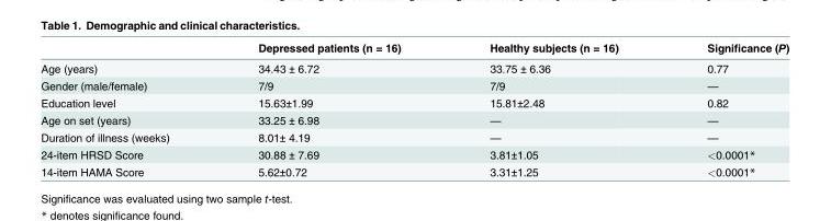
<table><thead><tr><td></td><td>Depressed patients (n = 16)</td><td>Healthy subjects (n = 16)</td><td>Significance (P)</td></tr></thead><tbody><tr><td>Age (years)</td><td>34.43 ± 6.72</td><td>33.75 ± 6.36</td><td>0.77</td></tr><tr><td>Gender (male/female)</td><td>7/9</td><td>7/9</td><td>—</td></tr><tr><td>Education level</td><td>15.63±1.99</td><td>15.81±2.48</td><td>0.82</td></tr><tr><td>Age on set (years)</td><td>33.25 ± 6.98</td><td>—</td><td>—</td></tr><tr><td>Duration of illness (weeks)</td><td>8.01± 4.19</td><td>—</td><td>—</td></tr><tr><td>24-item HRSD Score</td><td>30.88 ± 7.69</td><td>3.81±1.05</td><td>&lt;0.0001*</td></tr><tr><td>14-item HAMA Score</td><td>5.62±0.72</td><td>3.31±1.25</td><td>&lt;0.0001*</td></tr></tbody></table>